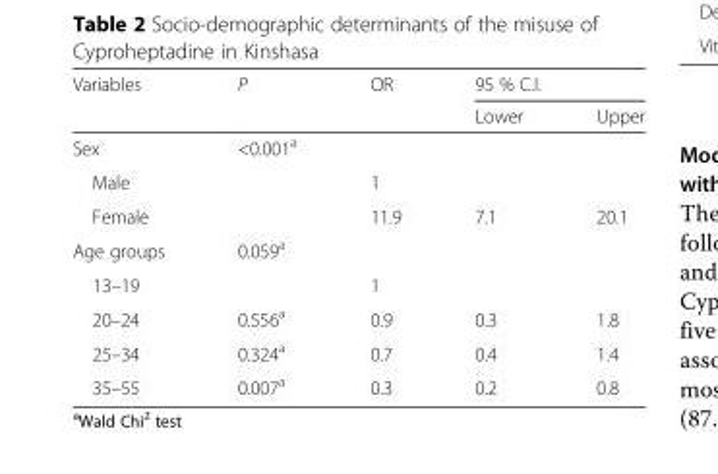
<table><thead><tr><td rowspan="2">Variables</td><td rowspan="2">P</td><td rowspan="2">OR</td><td colspan="2">95 % C.I.</td></tr><tr><td>Lower</td><td>Upper</td></tr></thead><tbody><tr><td>Sex</td><td>&lt;0.001<sup>a</sup></td><td></td><td></td><td></td></tr><tr><td>Male</td><td></td><td>1</td><td></td><td></td></tr><tr><td>Female</td><td></td><td>11.9</td><td>7.1</td><td>20.1</td></tr><tr><td>Age groups</td><td>0.059<sup>a</sup></td><td></td><td></td><td></td></tr><tr><td>13–19</td><td></td><td>1</td><td></td><td></td></tr><tr><td>20–24</td><td>0.556<sup>a</sup></td><td>0.9</td><td>0.3</td><td>1.8</td></tr><tr><td>25–34</td><td>0.324<sup>a</sup></td><td>0.7</td><td>0.4</td><td>1.4</td></tr><tr><td>35–55</td><td>0.007<sup>a</sup></td><td>0.3</td><td>0.2</td><td>0.8</td></tr></tbody></table>